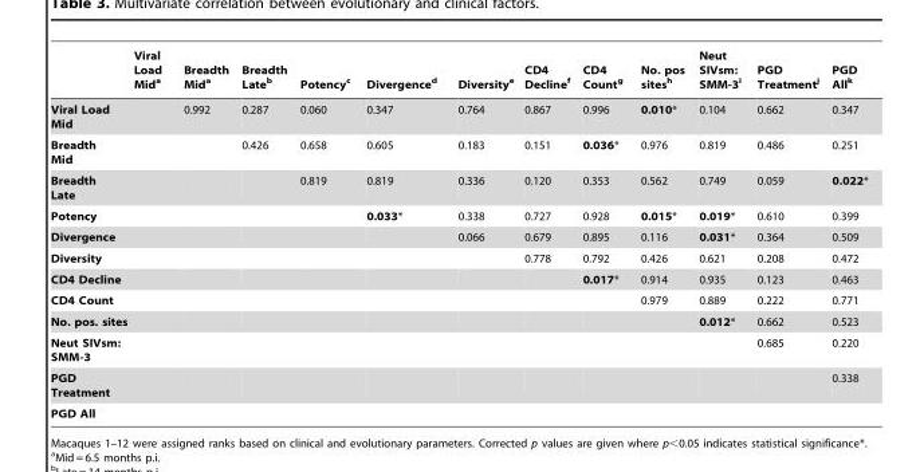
<table><thead><tr><td></td><td>Viral Load Mid<sup>a</sup></td><td>Breadth Mid<sup>a</sup></td><td>Breadth Late<sup>b</sup></td><td>Potency<sup>c</sup></td><td>Divergence<sup>d</sup></td><td>Diversity<sup>e</sup></td><td>CD4 Decline<sup>f</sup></td><td>CD4 Count<sup>g</sup></td><td>No. pos sites<sup>h</sup></td><td>Neut SIVsm: SMM-3<sup>i</sup></td><td>PGD Treatment<sup>j</sup></td><td>PGD All<sup>k</sup></td></tr></thead><tbody><tr><td>Viral Load Mid</td><td></td><td>0.992</td><td>0.287</td><td>0.060</td><td>0.347</td><td>0.764</td><td>0.867</td><td>0.996</td><td>0.010*</td><td>0.104</td><td>0.662</td><td>0.347</td></tr><tr><td>Breadth Mid</td><td></td><td></td><td>0.426</td><td>0.658</td><td>0.605</td><td>0.183</td><td>0.151</td><td>0.036*</td><td>0.976</td><td>0.819</td><td>0.486</td><td>0.251</td></tr><tr><td>Breadth Late</td><td></td><td></td><td></td><td>0.819</td><td>0.819</td><td>0.336</td><td>0.120</td><td>0.353</td><td>0.562</td><td>0.749</td><td>0.059</td><td>0.022*</td></tr><tr><td>Potency</td><td></td><td></td><td></td><td></td><td>0.033*</td><td>0.338</td><td>0.727</td><td>0.928</td><td>0.015*</td><td>0.019*</td><td>0.610</td><td>0.399</td></tr><tr><td>Divergence</td><td></td><td></td><td></td><td></td><td></td><td>0.066</td><td>0.679</td><td>0.895</td><td>0.116</td><td>0.031*</td><td>0.364</td><td>0.509</td></tr><tr><td>Diversity</td><td></td><td></td><td></td><td></td><td></td><td></td><td>0.778</td><td>0.792</td><td>0.426</td><td>0.621</td><td>0.208</td><td>0.472</td></tr><tr><td>CD4 Decline</td><td></td><td></td><td></td><td></td><td></td><td></td><td></td><td>0.017*</td><td>0.914</td><td>0.935</td><td>0.123</td><td>0.463</td></tr><tr><td>CD4 Count</td><td></td><td></td><td></td><td></td><td></td><td></td><td></td><td></td><td>0.979</td><td>0.889</td><td>0.222</td><td>0.771</td></tr><tr><td>No. pos. sites</td><td></td><td></td><td></td><td></td><td></td><td></td><td></td><td></td><td></td><td>0.012*</td><td>0.662</td><td>0.523</td></tr><tr><td>Neut SIVsm: SMM-3</td><td></td><td></td><td></td><td></td><td></td><td></td><td></td><td></td><td></td><td></td><td>0.685</td><td>0.220</td></tr><tr><td>PGD Treatment</td><td></td><td></td><td></td><td></td><td></td><td></td><td></td><td></td><td></td><td></td><td></td><td>0.338</td></tr><tr><td>PGD All</td><td></td><td></td><td></td><td></td><td></td><td></td><td></td><td></td><td></td><td></td><td></td><td></td></tr></tbody></table>